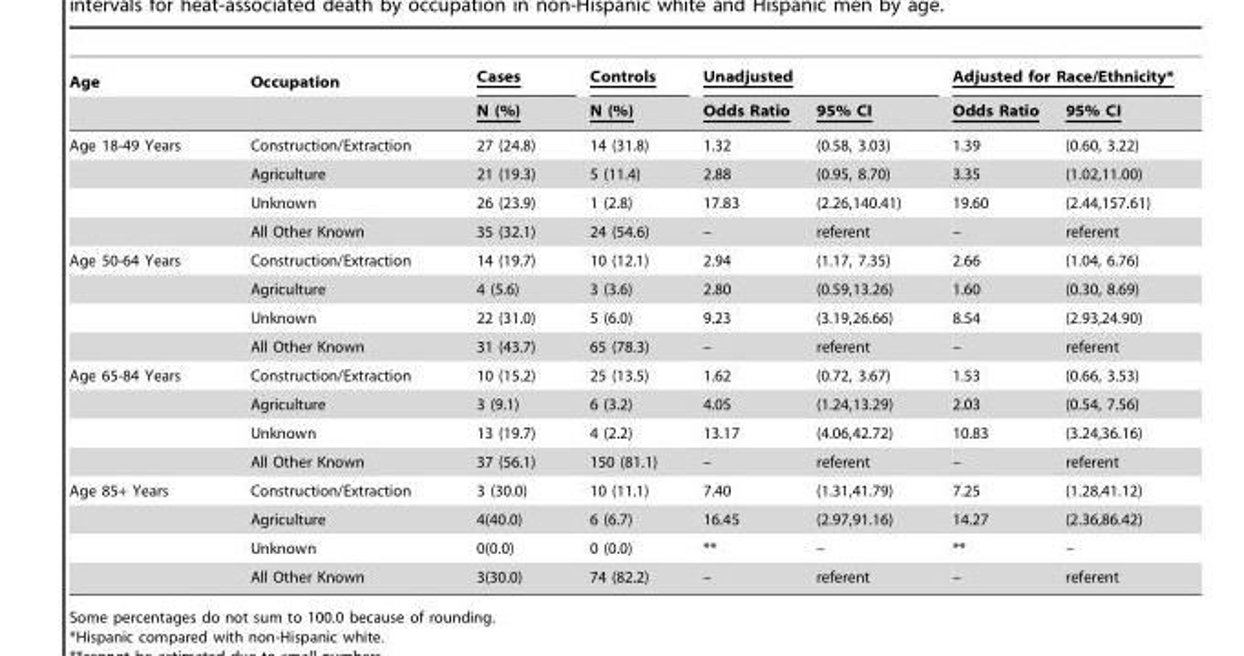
<table><thead><tr><td rowspan="2">Age</td><td rowspan="2">Occupation</td><td rowspan="2">Cases N (%)</td><td rowspan="2">Controls N (%)</td><td colspan="2">Unadjusted</td><td colspan="2">Adjusted for Race/Ethnicity*</td></tr><tr><td>Odds Ratio</td><td>95% CI</td><td>Odds Ratio</td><td>95% CI</td></tr></thead><tbody><tr><td rowspan="4">Age 18-49 Years</td><td>Construction/Extraction</td><td>27 (24.8)</td><td>14 (31.8)</td><td>1.32</td><td>(0.58, 3.03)</td><td>1.39</td><td>(0.60, 3.22)</td></tr><tr><td>Agriculture</td><td>21 (19.3)</td><td>5 (11.4)</td><td>2.88</td><td>(0.95, 8.70)</td><td>3.35</td><td>(1.02,11.00)</td></tr><tr><td>Unknown</td><td>26 (23.9)</td><td>1 (2.8)</td><td>17.83</td><td>(2.26,140.41)</td><td>19.60</td><td>(2.44,157.61)</td></tr><tr><td>All Other Known</td><td>35 (32.1)</td><td>24 (54.6)</td><td>–</td><td>referent</td><td>–</td><td>referent</td></tr><tr><td rowspan="4">Age 50-64 Years</td><td>Construction/Extraction</td><td>14 (19.7)</td><td>10 (12.1)</td><td>2.94</td><td>(1.17, 7.35)</td><td>2.66</td><td>(1.04, 6.76)</td></tr><tr><td>Agriculture</td><td>4 (5.6)</td><td>3 (3.6)</td><td>2.80</td><td>(0.59,13.26)</td><td>1.60</td><td>(0.30, 8.69)</td></tr><tr><td>Unknown</td><td>22 (31.0)</td><td>5 (6.0)</td><td>9.23</td><td>(3.19,26.66)</td><td>8.54</td><td>(2.93,24.90)</td></tr><tr><td>All Other Known</td><td>31 (43.7)</td><td>65 (78.3)</td><td>–</td><td>referent</td><td>–</td><td>referent</td></tr><tr><td rowspan="4">Age 65-84 Years</td><td>Construction/Extraction</td><td>10 (15.2)</td><td>25 (13.5)</td><td>1.62</td><td>(0.72, 3.67)</td><td>1.53</td><td>(0.66, 3.53)</td></tr><tr><td>Agriculture</td><td>3 (9.1)</td><td>6 (3.2)</td><td>4.05</td><td>(1.24,13.29)</td><td>2.03</td><td>(0.54, 7.56)</td></tr><tr><td>Unknown</td><td>13 (19.7)</td><td>4 (2.2)</td><td>13.17</td><td>(4.06,42.72)</td><td>10.83</td><td>(3.24,36.16)</td></tr><tr><td>All Other Known</td><td>37 (56.1)</td><td>150 (81.1)</td><td>–</td><td>referent</td><td>–</td><td>referent</td></tr><tr><td rowspan="4">Age 85+ Years</td><td>Construction/Extraction</td><td>3 (30.0)</td><td>10 (11.1)</td><td>7.40</td><td>(1.31,41.79)</td><td>7.25</td><td>(1.28,41.12)</td></tr><tr><td>Agriculture</td><td>4(40.0)</td><td>6 (6.7)</td><td>16.45</td><td>(2.97,91.16)</td><td>14.27</td><td>(2.36,86.42)</td></tr><tr><td>Unknown</td><td>0(0.0)</td><td>0 (0.0)</td><td>**</td><td>–</td><td>**</td><td>–</td></tr><tr><td>All Other Known</td><td>3(30.0)</td><td>74 (82.2)</td><td>–</td><td>referent</td><td>–</td><td>referent</td></tr></tbody></table>